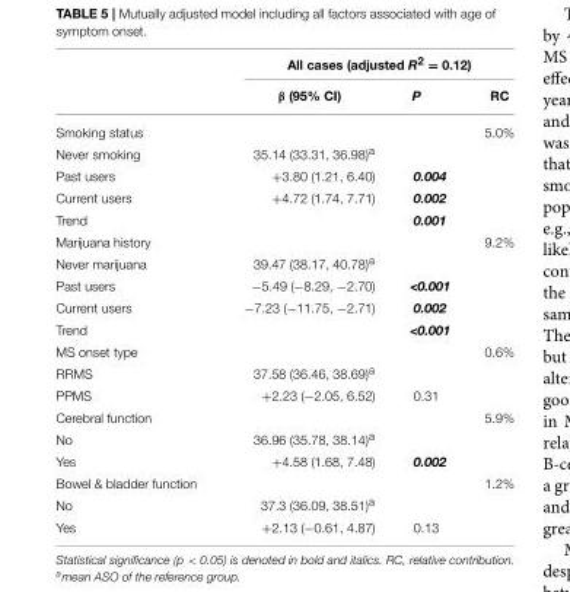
<table><thead><tr><td rowspan="2"></td><td colspan="3">All cases (adjusted R<sup>2</sup> = 0.12)</td></tr><tr><td>β (95% CI)</td><td>P</td><td>RC</td></tr></thead><tbody><tr><td>Smoking status</td><td></td><td></td><td>5.0%</td></tr><tr><td>Never smoking</td><td>35.14 (33.31, 36.98)<sup>a</sup></td><td></td><td></td></tr><tr><td>Past users</td><td>+3.80 (1.21, 6.40)</td><td>0.004</td><td></td></tr><tr><td>Current users</td><td>+4.72 (1.74, 7.71)</td><td>0.002</td><td></td></tr><tr><td>Trend</td><td></td><td>0.001</td><td></td></tr><tr><td>Marijuana history</td><td></td><td></td><td>9.2%</td></tr><tr><td>Never marijuana</td><td>39.47 (38.17, 40.78)<sup>a</sup></td><td></td><td></td></tr><tr><td>Past users</td><td>−5.49 (−8.29, −2.70)</td><td>&lt;0.001</td><td></td></tr><tr><td>Current users</td><td>−7.23 (−11.75, −2.71)</td><td>0.002</td><td></td></tr><tr><td>Trend</td><td></td><td>&lt;0.001</td><td></td></tr><tr><td>MS onset type</td><td></td><td></td><td>0.6%</td></tr><tr><td>RRMS</td><td>37.58 (36.46, 38.69)<sup>a</sup></td><td></td><td></td></tr><tr><td>PPMS</td><td>+2.23 (−2.05, 6.52)</td><td>0.31</td><td></td></tr><tr><td>Cerebral function</td><td></td><td></td><td>5.9%</td></tr><tr><td>No</td><td>36.96 (35.78, 38.14)<sup>a</sup></td><td></td><td></td></tr><tr><td>Yes</td><td>+4.58 (1.68, 7.48)</td><td>0.002</td><td></td></tr><tr><td>Bowel &amp; bladder function</td><td></td><td></td><td>1.2%</td></tr><tr><td>No</td><td>37.3 (36.09, 38.51)<sup>a</sup></td><td></td><td></td></tr><tr><td>Yes</td><td>+2.13 (−0.61, 4.87)</td><td>0.13</td><td></td></tr></tbody></table>